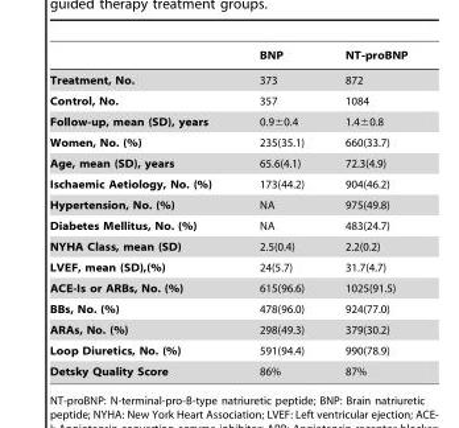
<table><thead><tr><td></td><td>BNP</td><td>NT-proBNP</td></tr></thead><tbody><tr><td>Treatment, No.</td><td>373</td><td>872</td></tr><tr><td>Control, No.</td><td>357</td><td>1084</td></tr><tr><td>Follow-up, mean (SD), years</td><td>0.9±0.4</td><td>1.4±0.8</td></tr><tr><td>Women, No. (%)</td><td>235(35.1)</td><td>660(33.7)</td></tr><tr><td>Age, mean (SD), years</td><td>65.6(4.1)</td><td>72.3(4.9)</td></tr><tr><td>Ischaemic Aetiology, No. (%)</td><td>173(44.2)</td><td>904(46.2)</td></tr><tr><td>Hypertension, No. (%)</td><td>NA</td><td>975(49.8)</td></tr><tr><td>Diabetes Mellitus, No. (%)</td><td>NA</td><td>483(24.7)</td></tr><tr><td>NYHA Class, mean (SD)</td><td>2.5(0.4)</td><td>2.2(0.2)</td></tr><tr><td>LVEF, mean (SD),(%)</td><td>24(5.7)</td><td>31.7(4.7)</td></tr><tr><td>ACE-Is or ARBs, No. (%)</td><td>615(96.6)</td><td>1025(91.5)</td></tr><tr><td>BBs, No. (%)</td><td>478(96.0)</td><td>924(77.0)</td></tr><tr><td>ARAs, No. (%)</td><td>298(49.3)</td><td>379(30.2)</td></tr><tr><td>Loop Diuretics, No. (%)</td><td>591(94.4)</td><td>990(78.9)</td></tr><tr><td>Detsky Quality Score</td><td>86%</td><td>87%</td></tr></tbody></table>